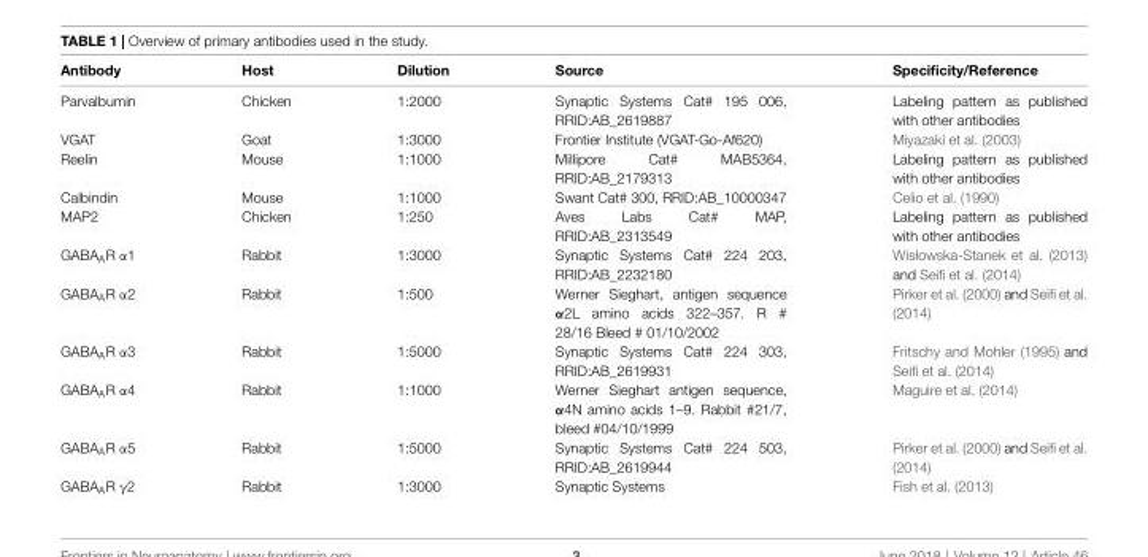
<table><thead><tr><td>Antibody</td><td>Host</td><td>Dilution</td><td>Source</td><td>Specificity/Reference</td></tr></thead><tbody><tr><td>Parvalbumin</td><td>Chicken</td><td>1:2000</td><td>Synaptic Systems Cat# 195 006, RRID:AB_2619887</td><td>Labeling pattern as published with other antibodies</td></tr><tr><td>VGAT</td><td>Goat</td><td>1:3000</td><td>Frontier Institute (VGAT-Go-Af620)</td><td>Miyazaki et al. (2003)</td></tr><tr><td>Reelin</td><td>Mouse</td><td>1:1000</td><td>Millipore Cat# MAB5364, RRID:AB_2179313</td><td>Labeling pattern as published with other antibodies</td></tr><tr><td>Calbindin</td><td>Mouse</td><td>1:1000</td><td>Swant Cat# 300, RRID:AB_10000347</td><td>Celio et al. (1990)</td></tr><tr><td>MAP2</td><td>Chicken</td><td>1:250</td><td>Aves Labs Cat# MAP, RRID:AB_2313549</td><td>Labeling pattern as published with other antibodies</td></tr><tr><td>GABA<sub>A</sub>R α1</td><td>Rabbit</td><td>1:3000</td><td>Synaptic Systems Cat# 224 203, RRID:AB_2232180</td><td>Wisłowska-Stanek et al. (2013) and Seifi et al. (2014)</td></tr><tr><td>GABA<sub>A</sub>R α2</td><td>Rabbit</td><td>1:500</td><td>Werner Sieghart, antigen sequence α2L amino acids 322–357. R # 28/16 Bleed # 01/10/2002</td><td>Pirker et al. (2000) and Seifi et al. (2014)</td></tr><tr><td>GABA<sub>A</sub>R α3</td><td>Rabbit</td><td>1:5000</td><td>Synaptic Systems Cat# 224 303, RRID:AB_2619931</td><td>Fritschy and Mohler (1995) and Seifi et al. (2014)</td></tr><tr><td>GABA<sub>A</sub>R α4</td><td>Rabbit</td><td>1:1000</td><td>Werner Sieghart antigen sequence, α4N amino acids 1–9. Rabbit #21/7, bleed #04/10/1999</td><td>Maguire et al. (2014)</td></tr><tr><td>GABA<sub>A</sub>R α5</td><td>Rabbit</td><td>1:5000</td><td>Synaptic Systems Cat# 224 503, RRID:AB_2619944</td><td>Pirker et al. (2000) and Seifi et al. (2014)</td></tr><tr><td>GABA<sub>A</sub>R γ2</td><td>Rabbit</td><td>1:3000</td><td>Synaptic Systems</td><td>Fish et al. (2013)</td></tr></tbody></table>